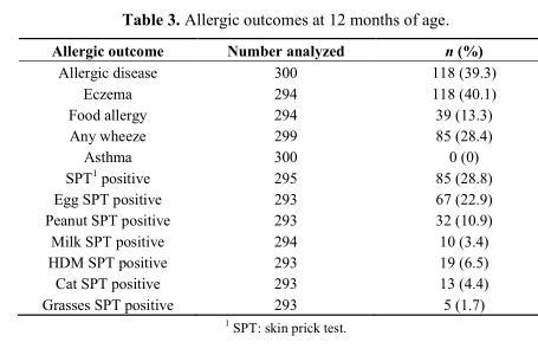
<table><thead><tr><td>Allergic outcome</td><td>Number analyzed</td><td>n (%)</td></tr></thead><tbody><tr><td>Allergic disease</td><td>300</td><td>118 (39.3)</td></tr><tr><td>Eczema</td><td>294</td><td>118 (40.1)</td></tr><tr><td>Food allergy</td><td>294</td><td>39 (13.3)</td></tr><tr><td>Any wheeze</td><td>299</td><td>85 (28.4)</td></tr><tr><td>Asthma</td><td>300</td><td>0 (0)</td></tr><tr><td>SPT<sup>1</sup> positive</td><td>295</td><td>85 (28.8)</td></tr><tr><td>Egg SPT positive</td><td>293</td><td>67 (22.9)</td></tr><tr><td>Peanut SPT positive</td><td>293</td><td>32 (10.9)</td></tr><tr><td>Milk SPT positive</td><td>294</td><td>10 (3.4)</td></tr><tr><td>HDM SPT positive</td><td>293</td><td>19 (6.5)</td></tr><tr><td>Cat SPT positive</td><td>293</td><td>13 (4.4)</td></tr><tr><td>Grasses SPT positive</td><td>293</td><td>5 (1.7)</td></tr></tbody></table>